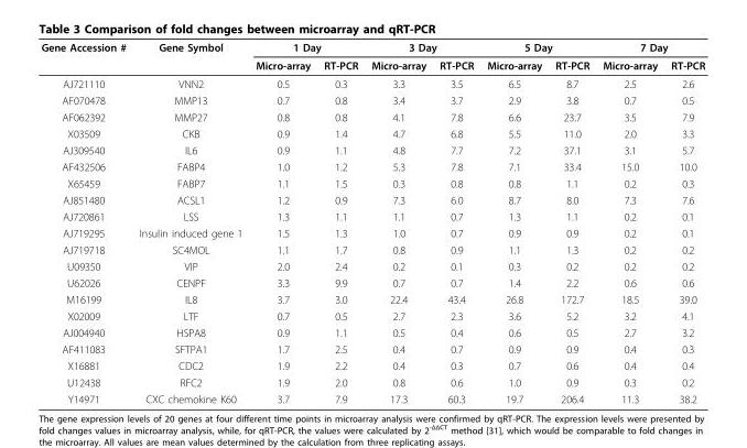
<table><thead><tr><td rowspan="2">Gene Accession #</td><td rowspan="2">Gene Symbol</td><td colspan="2">1 Day</td><td colspan="2">3 Day</td><td colspan="2">5 Day</td><td colspan="2">7 Day</td></tr><tr><td>Micro-array</td><td>RT-PCR</td><td>Micro-array</td><td>RT-PCR</td><td>Micro-array</td><td>RT-PCR</td><td>Micro-array</td><td>RT-PCR</td></tr></thead><tbody><tr><td>AJ721110</td><td>VNN2</td><td>0.5</td><td>0.3</td><td>3.3</td><td>3.5</td><td>6.5</td><td>8.7</td><td>2.5</td><td>2.6</td></tr><tr><td>AF070478</td><td>MMP13</td><td>0.7</td><td>0.8</td><td>3.4</td><td>3.7</td><td>2.9</td><td>3.8</td><td>0.7</td><td>0.5</td></tr><tr><td>AF062392</td><td>MMP27</td><td>0.8</td><td>0.8</td><td>4.1</td><td>7.8</td><td>6.6</td><td>23.7</td><td>3.5</td><td>7.9</td></tr><tr><td>X03509</td><td>CKB</td><td>0.9</td><td>1.4</td><td>4.7</td><td>6.8</td><td>5.5</td><td>11.0</td><td>2.0</td><td>3.3</td></tr><tr><td>AJ309540</td><td>IL6</td><td>0.9</td><td>1.1</td><td>4.8</td><td>7.7</td><td>7.2</td><td>37.1</td><td>3.1</td><td>5.7</td></tr><tr><td>AF432506</td><td>FABP4</td><td>1.0</td><td>1.2</td><td>5.3</td><td>7.8</td><td>7.1</td><td>33.4</td><td>15.0</td><td>10.0</td></tr><tr><td>X65459</td><td>FABP7</td><td>1.1</td><td>1.5</td><td>0.3</td><td>0.8</td><td>0.8</td><td>1.1</td><td>0.2</td><td>0.3</td></tr><tr><td>AJ851480</td><td>ACSL1</td><td>1.2</td><td>0.9</td><td>7.3</td><td>6.0</td><td>8.7</td><td>8.0</td><td>7.3</td><td>7.6</td></tr><tr><td>AJ720861</td><td>LSS</td><td>1.3</td><td>1.1</td><td>1.1</td><td>0.7</td><td>1.3</td><td>1.1</td><td>0.2</td><td>0.1</td></tr><tr><td>AJ719295</td><td>Insulin induced gene 1</td><td>1.5</td><td>1.3</td><td>1.0</td><td>0.7</td><td>0.9</td><td>0.9</td><td>0.2</td><td>0.1</td></tr><tr><td>AJ719718</td><td>SC4MOL</td><td>1.1</td><td>1.7</td><td>0.8</td><td>0.9</td><td>1.1</td><td>1.3</td><td>0.2</td><td>0.2</td></tr><tr><td>U09350</td><td>VIP</td><td>2.0</td><td>2.4</td><td>0.2</td><td>0.1</td><td>0.3</td><td>0.2</td><td>0.2</td><td>0.2</td></tr><tr><td>U62026</td><td>CENPF</td><td>3.3</td><td>9.9</td><td>0.7</td><td>0.7</td><td>1.4</td><td>2.2</td><td>0.6</td><td>0.6</td></tr><tr><td>M16199</td><td>IL8</td><td>3.7</td><td>3.0</td><td>22.4</td><td>43.4</td><td>26.8</td><td>172.7</td><td>18.5</td><td>39.0</td></tr><tr><td>X02009</td><td>LTF</td><td>0.7</td><td>0.5</td><td>2.7</td><td>2.3</td><td>3.6</td><td>5.2</td><td>3.2</td><td>4.1</td></tr><tr><td>AJ004940</td><td>HSPA8</td><td>0.9</td><td>1.1</td><td>0.5</td><td>0.4</td><td>0.6</td><td>0.5</td><td>2.7</td><td>3.2</td></tr><tr><td>AF411083</td><td>SFTPA1</td><td>1.7</td><td>2.5</td><td>0.4</td><td>0.7</td><td>0.9</td><td>0.9</td><td>0.4</td><td>0.3</td></tr><tr><td>X16881</td><td>CDC2</td><td>1.9</td><td>2.2</td><td>0.4</td><td>0.3</td><td>0.7</td><td>0.6</td><td>0.4</td><td>0.4</td></tr><tr><td>U12438</td><td>RFC2</td><td>1.9</td><td>2.0</td><td>0.8</td><td>0.6</td><td>1.0</td><td>0.9</td><td>0.3</td><td>0.2</td></tr><tr><td>Y14971</td><td>CXC chemokine K60</td><td>3.7</td><td>7.9</td><td>17.3</td><td>60.3</td><td>19.7</td><td>206.4</td><td>11.3</td><td>38.2</td></tr></tbody></table>